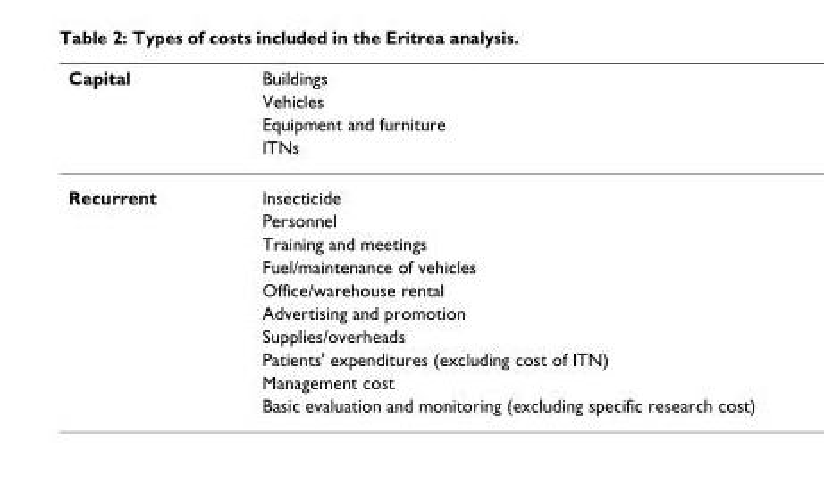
<table><thead><tr><td rowspan="4">Capital</td><td rowspan="4">Buildings Vehicles Equipment and furniture ITNs</td></tr><tr></tr><tr></tr><tr></tr></thead><tbody><tr><td rowspan="10">Recurrent</td><td>Insecticide</td></tr><tr><td>Personnel</td></tr><tr><td>Training and meetings</td></tr><tr><td>Fuel/maintenance of vehicles</td></tr><tr><td>Office/warehouse rental</td></tr><tr><td>Advertising and promotion</td></tr><tr><td>Supplies/overheads</td></tr><tr><td>Patients&#x27; expenditures (excluding cost of ITN)</td></tr><tr><td>Management cost</td></tr><tr><td>Basic evaluation and monitoring (excluding specific research cost)</td></tr></tbody></table>